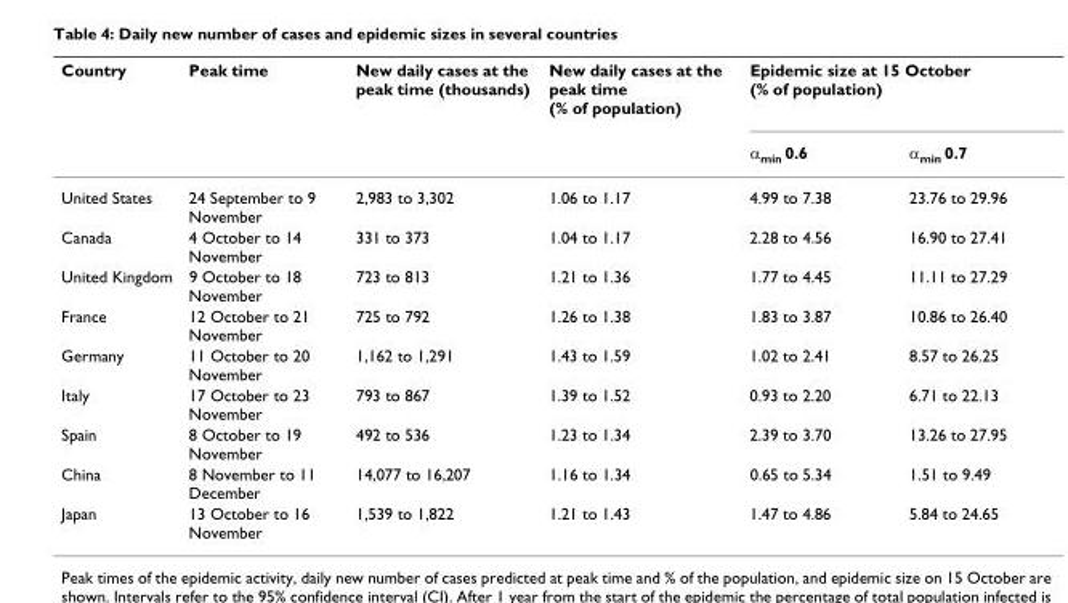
<table><thead><tr><td rowspan="2">Country</td><td rowspan="2">Peak time</td><td rowspan="2">New daily cases at the peak time (thousands)</td><td rowspan="2">New daily cases at the peak time (% of population)</td><td colspan="2">Epidemic size at 15 October (% of population)</td></tr><tr><td>α<sub>min</sub> 0.6</td><td>α<sub>min</sub> 0.7</td></tr></thead><tbody><tr><td>United States</td><td>24 September to 9 November</td><td>2,983 to 3,302</td><td>1.06 to 1.17</td><td>4.99 to 7.38</td><td>23.76 to 29.96</td></tr><tr><td>Canada</td><td>4 October to 14 November</td><td>331 to 373</td><td>1.04 to 1.17</td><td>2.28 to 4.56</td><td>16.90 to 27.41</td></tr><tr><td>United Kingdom</td><td>9 October to 18 November</td><td>723 to 813</td><td>1.21 to 1.36</td><td>1.77 to 4.45</td><td>11.11 to 27.29</td></tr><tr><td>France</td><td>12 October to 21 November</td><td>725 to 792</td><td>1.26 to 1.38</td><td>1.83 to 3.87</td><td>10.86 to 26.40</td></tr><tr><td>Germany</td><td>11 October to 20 November</td><td>1,162 to 1,291</td><td>1.43 to 1.59</td><td>1.02 to 2.41</td><td>8.57 to 26.25</td></tr><tr><td>Italy</td><td>17 October to 23 November</td><td>793 to 867</td><td>1.39 to 1.52</td><td>0.93 to 2.20</td><td>6.71 to 22.13</td></tr><tr><td>Spain</td><td>8 October to 19 November</td><td>492 to 536</td><td>1.23 to 1.34</td><td>2.39 to 3.70</td><td>13.26 to 27.95</td></tr><tr><td>China</td><td>8 November to 11 December</td><td>14,077 to 16,207</td><td>1.16 to 1.34</td><td>0.65 to 5.34</td><td>1.51 to 9.49</td></tr><tr><td>Japan</td><td>13 October to 16 November</td><td>1,539 to 1,822</td><td>1.21 to 1.43</td><td>1.47 to 4.86</td><td>5.84 to 24.65</td></tr></tbody></table>